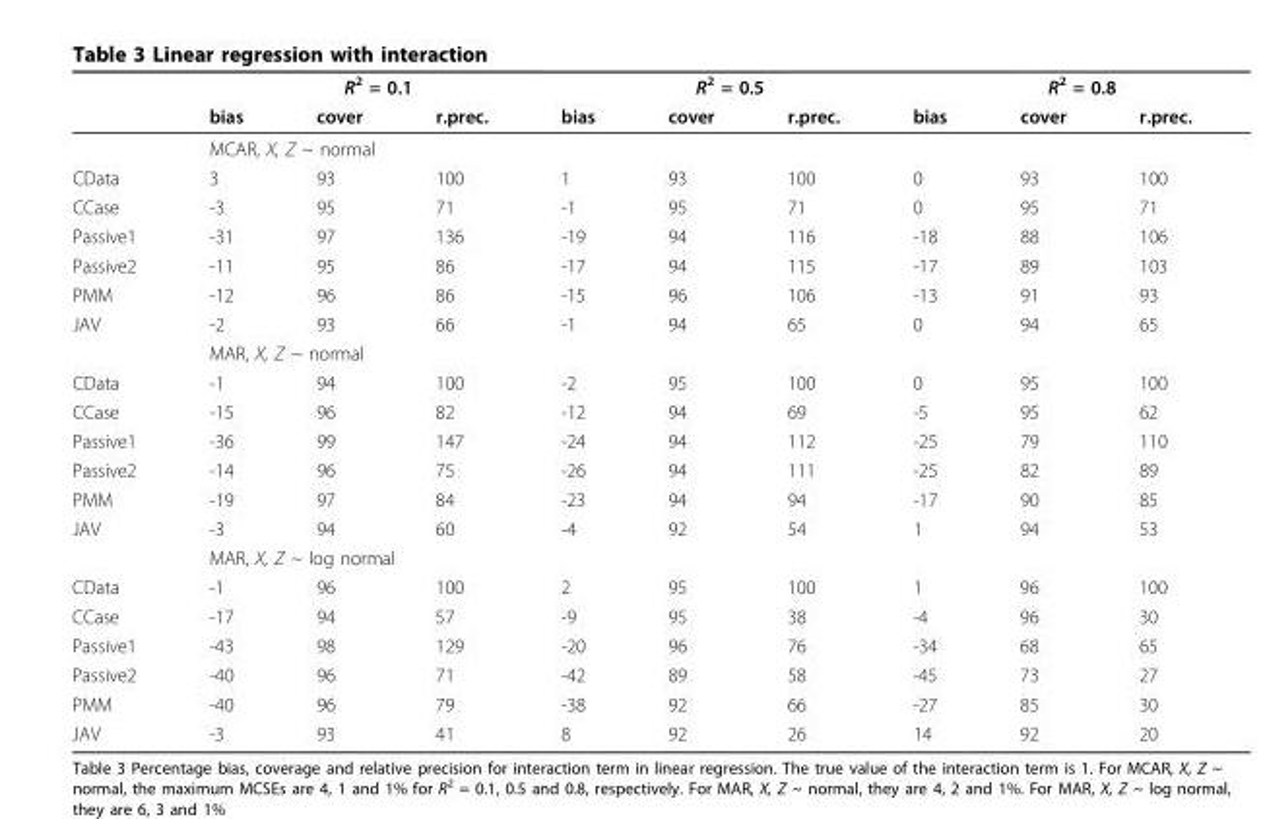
<table><thead><tr><td rowspan="2"></td><td colspan="3">R<sup>2</sup> = 0.1</td><td colspan="3">R<sup>2</sup> = 0.5</td><td colspan="3">R<sup>2</sup> = 0.8</td></tr><tr><td>bias</td><td>cover</td><td>r.prec.</td><td>bias</td><td>cover</td><td>r.prec.</td><td>bias</td><td>cover</td><td>r.prec.</td></tr></thead><tbody><tr><td></td><td colspan="9">MCAR, X, Z ~ normal</td></tr><tr><td>CData</td><td>3</td><td>93</td><td>100</td><td>1</td><td>93</td><td>100</td><td>0</td><td>93</td><td>100</td></tr><tr><td>CCase</td><td>-3</td><td>95</td><td>71</td><td>-1</td><td>95</td><td>71</td><td>0</td><td>95</td><td>71</td></tr><tr><td>Passive1</td><td>-31</td><td>97</td><td>136</td><td>-19</td><td>94</td><td>116</td><td>-18</td><td>88</td><td>106</td></tr><tr><td>Passive2</td><td>-11</td><td>95</td><td>86</td><td>-17</td><td>94</td><td>115</td><td>-17</td><td>89</td><td>103</td></tr><tr><td>PMM</td><td>-12</td><td>96</td><td>86</td><td>-15</td><td>96</td><td>106</td><td>-13</td><td>91</td><td>93</td></tr><tr><td rowspan="2">JAV</td><td>-2</td><td>93</td><td>66</td><td>-1</td><td>94</td><td>65</td><td>0</td><td>94</td><td>65</td></tr><tr><td colspan="9">MAR, X, Z ~ normal</td></tr><tr><td>CData</td><td>-1</td><td>94</td><td>100</td><td>-2</td><td>95</td><td>100</td><td>0</td><td>95</td><td>100</td></tr><tr><td>CCase</td><td>-15</td><td>96</td><td>82</td><td>-12</td><td>94</td><td>69</td><td>-5</td><td>95</td><td>62</td></tr><tr><td>Passive1</td><td>-36</td><td>99</td><td>147</td><td>-24</td><td>94</td><td>112</td><td>-25</td><td>79</td><td>110</td></tr><tr><td>Passive2</td><td>-14</td><td>96</td><td>75</td><td>-26</td><td>94</td><td>111</td><td>-25</td><td>82</td><td>89</td></tr><tr><td>PMM</td><td>-19</td><td>97</td><td>84</td><td>-23</td><td>94</td><td>94</td><td>-17</td><td>90</td><td>85</td></tr><tr><td rowspan="2">JAV</td><td>-3</td><td>94</td><td>60</td><td>-4</td><td>92</td><td>54</td><td>1</td><td>94</td><td>53</td></tr><tr><td colspan="9">MAR, X, Z ~ log normal</td></tr><tr><td>CData</td><td>-1</td><td>96</td><td>100</td><td>2</td><td>95</td><td>100</td><td>1</td><td>96</td><td>100</td></tr><tr><td>CCase</td><td>-17</td><td>94</td><td>57</td><td>-9</td><td>95</td><td>38</td><td>-4</td><td>96</td><td>30</td></tr><tr><td>Passive1</td><td>-43</td><td>98</td><td>129</td><td>-20</td><td>96</td><td>76</td><td>-34</td><td>68</td><td>65</td></tr><tr><td>Passive2</td><td>-40</td><td>96</td><td>71</td><td>-42</td><td>89</td><td>58</td><td>-45</td><td>73</td><td>27</td></tr><tr><td>PMM</td><td>-40</td><td>96</td><td>79</td><td>-38</td><td>92</td><td>66</td><td>-27</td><td>85</td><td>30</td></tr><tr><td>JAV</td><td>-3</td><td>93</td><td>41</td><td>8</td><td>92</td><td>26</td><td>14</td><td>92</td><td>20</td></tr></tbody></table>